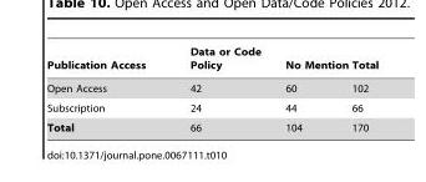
<table><thead><tr><td>Publication Access</td><td>Data or Code Policy</td><td>No Mention</td><td>Total</td></tr></thead><tbody><tr><td>Open Access</td><td>42</td><td>60</td><td>102</td></tr><tr><td>Subscription</td><td>24</td><td>44</td><td>66</td></tr><tr><td>Total</td><td>66</td><td>104</td><td>170</td></tr></tbody></table>